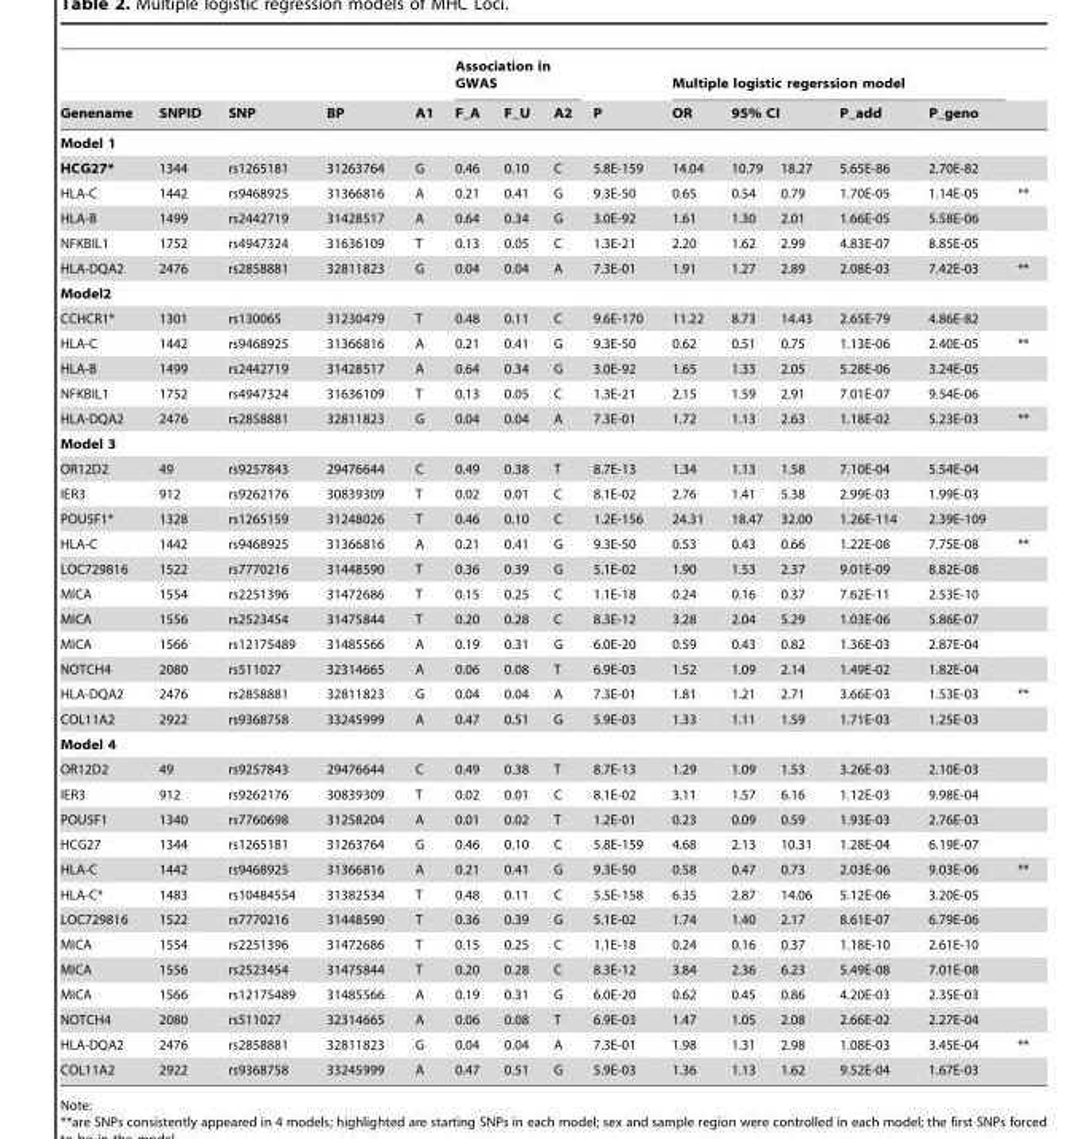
<table><thead><tr><td rowspan="3">Genename Model 1</td><td rowspan="3">SNPID</td><td rowspan="3">SNP</td><td rowspan="3">BP</td><td rowspan="3">A1</td><td colspan="3">Association in GWAS</td><td rowspan="3">P</td><td colspan="5">Multiple logistic regerssion model</td><td rowspan="3"></td></tr><tr><td rowspan="2">F_A</td><td rowspan="2">F_U</td><td rowspan="2">A2</td><td rowspan="2">OR</td><td colspan="2">95% CI</td><td rowspan="2">P_add</td><td rowspan="2">P_geno</td></tr><tr><td></td><td></td></tr></thead><tbody><tr><td>HCG27*</td><td>1344</td><td>rs1265181</td><td>31263764</td><td>G</td><td>0.46</td><td>0.10</td><td>C</td><td>5.8E-159</td><td>14.04</td><td>10.79</td><td>18.27</td><td>5.65E-86</td><td>2.70E-82</td><td></td></tr><tr><td>HLA-C</td><td>1442</td><td>rs9468925</td><td>31366816</td><td>A</td><td>0.21</td><td>0.41</td><td>G</td><td>9.3E-50</td><td>0.65</td><td>0.54</td><td>0.79</td><td>1.70E-05</td><td>1.14E-05</td><td>**</td></tr><tr><td>HLA-B</td><td>1499</td><td>rs2442719</td><td>31428517</td><td>A</td><td>0.64</td><td>0.34</td><td>G</td><td>3.0E-92</td><td>1.61</td><td>1.30</td><td>2.01</td><td>1.66E-05</td><td>5.58E-06</td><td></td></tr><tr><td>NFKBIL1</td><td>1752</td><td>rs4947324</td><td>31636109</td><td>T</td><td>0.13</td><td>0.05</td><td>C</td><td>1.3E-21</td><td>2.20</td><td>1.62</td><td>2.99</td><td>4.83E-07</td><td>8.85E-05</td><td></td></tr><tr><td>HLA-DQA2</td><td>2476</td><td>rs2858881</td><td>32811823</td><td>G</td><td>0.04</td><td>0.04</td><td>A</td><td>7.3E-01</td><td>1.91</td><td>1.27</td><td>2.89</td><td>2.08E-03</td><td>7.42E-03</td><td>**</td></tr><tr><td colspan="15">Model2</td></tr><tr><td>CCHCR1*</td><td>1301</td><td>rs130065</td><td>31230479</td><td>T</td><td>0.48</td><td>0.11</td><td>C</td><td>9.6E-170</td><td>11.22</td><td>8.73</td><td>14.43</td><td>2.65E-79</td><td>4.86E-82</td><td></td></tr><tr><td>HLA-C</td><td>1442</td><td>rs9468925</td><td>31366816</td><td>A</td><td>0.21</td><td>0.41</td><td>G</td><td>9.3E-50</td><td>0.62</td><td>0.51</td><td>0.75</td><td>1.13E-06</td><td>2.40E-05</td><td>**</td></tr><tr><td>HLA-B</td><td>1499</td><td>rs2442719</td><td>31428517</td><td>A</td><td>0.64</td><td>0.34</td><td>G</td><td>3.0E-92</td><td>1.65</td><td>1.33</td><td>2.05</td><td>5.28E-06</td><td>3.24E-05</td><td></td></tr><tr><td>NFKBIL1</td><td>1752</td><td>rs4947324</td><td>31636109</td><td>T</td><td>0.13</td><td>0.05</td><td>C</td><td>1.3E-21</td><td>2.15</td><td>1.59</td><td>2.91</td><td>7.01E-07</td><td>9.54E-06</td><td></td></tr><tr><td>HLA-DQA2</td><td>2476</td><td>rs2858881</td><td>32811823</td><td>G</td><td>0.04</td><td>0.04</td><td>A</td><td>7.3E-01</td><td>1.72</td><td>1.13</td><td>2.63</td><td>1.18E-02</td><td>5.23E-03</td><td>**</td></tr><tr><td colspan="15">Model 3</td></tr><tr><td>OR12D2</td><td>49</td><td>rs9257843</td><td>29476644</td><td>C</td><td>0.49</td><td>0.38</td><td>T</td><td>8.7E-13</td><td>1.34</td><td>1.13</td><td>1.58</td><td>7.10E-04</td><td>5.54E-04</td><td></td></tr><tr><td>IER3</td><td>912</td><td>rs9262176</td><td>30839309</td><td>T</td><td>0.02</td><td>0.01</td><td>C</td><td>8.1E-02</td><td>2.76</td><td>1.41</td><td>5.38</td><td>2.99E-03</td><td>1.99E-03</td><td></td></tr><tr><td>POU5F1*</td><td>1328</td><td>rs1265159</td><td>31248026</td><td>T</td><td>0.46</td><td>0.10</td><td>C</td><td>1.2E-156</td><td>24.31</td><td>18.47</td><td>32.00</td><td>1.26E-114</td><td>2.39E-109</td><td></td></tr><tr><td>HLA-C</td><td>1442</td><td>rs9468925</td><td>31366816</td><td>A</td><td>0.21</td><td>0.41</td><td>G</td><td>9.3E-50</td><td>0.53</td><td>0.43</td><td>0.66</td><td>1.22E-08</td><td>7.75E-08</td><td>**</td></tr><tr><td>LOC729816</td><td>1522</td><td>rs7770216</td><td>31448590</td><td>T</td><td>0.36</td><td>0.39</td><td>G</td><td>5.1E-02</td><td>1.90</td><td>1.53</td><td>2.37</td><td>9.01E-09</td><td>8.82E-08</td><td></td></tr><tr><td>MICA</td><td>1554</td><td>rs2251396</td><td>31472686</td><td>T</td><td>0.15</td><td>0.25</td><td>C</td><td>1.1E-18</td><td>0.24</td><td>0.16</td><td>0.37</td><td>7.62E-11</td><td>2.53E-10</td><td></td></tr><tr><td>MICA</td><td>1556</td><td>rs2523454</td><td>31475844</td><td>T</td><td>0.20</td><td>0.28</td><td>C</td><td>8.3E-12</td><td>3.28</td><td>2.04</td><td>5.29</td><td>1.03E-06</td><td>5.86E-07</td><td></td></tr><tr><td>MICA</td><td>1566</td><td>rs12175489</td><td>31485566</td><td>A</td><td>0.19</td><td>0.31</td><td>G</td><td>6.0E-20</td><td>0.59</td><td>0.43</td><td>0.82</td><td>1.36E-03</td><td>2.87E-04</td><td></td></tr><tr><td>NOTCH4</td><td>2080</td><td>rs511027</td><td>32314665</td><td>A</td><td>0.06</td><td>0.08</td><td>T</td><td>6.9E-03</td><td>1.52</td><td>1.09</td><td>2.14</td><td>1.49E-02</td><td>1.82E-04</td><td></td></tr><tr><td>HLA-DQA2</td><td>2476</td><td>rs2858881</td><td>32811823</td><td>G</td><td>0.04</td><td>0.04</td><td>A</td><td>7.3E-01</td><td>1.81</td><td>1.21</td><td>2.71</td><td>3.66E-03</td><td>1.53E-03</td><td>**</td></tr><tr><td>COL11A2</td><td>2922</td><td>rs9368758</td><td>33245999</td><td>A</td><td>0.47</td><td>0.51</td><td>G</td><td>5.9E-03</td><td>1.33</td><td>1.11</td><td>1.59</td><td>1.71E-03</td><td>1.25E-03</td><td></td></tr><tr><td colspan="15">Model 4</td></tr><tr><td>OR12D2</td><td>49</td><td>rs9257843</td><td>29476644</td><td>C</td><td>0.49</td><td>0.38</td><td>T</td><td>8.7E-13</td><td>1.29</td><td>1.09</td><td>1.53</td><td>3.26E-03</td><td>2.10E-03</td><td></td></tr><tr><td>IER3</td><td>912</td><td>rs9262176</td><td>30839309</td><td>T</td><td>0.02</td><td>0.01</td><td>C</td><td>8.1E-02</td><td>3.11</td><td>1.57</td><td>6.16</td><td>1.12E-03</td><td>9.98E-04</td><td></td></tr><tr><td>POU5F1</td><td>1340</td><td>rs7760698</td><td>31258204</td><td>A</td><td>0.01</td><td>0.02</td><td>T</td><td>1.2E-01</td><td>0.23</td><td>0.09</td><td>0.59</td><td>1.93E-03</td><td>2.76E-03</td><td></td></tr><tr><td>HCG27</td><td>1344</td><td>rs1265181</td><td>31263764</td><td>G</td><td>0.46</td><td>0.10</td><td>C</td><td>5.8E-159</td><td>4.68</td><td>2.13</td><td>10.31</td><td>1.28E-04</td><td>6.19E-07</td><td></td></tr><tr><td>HLA-C</td><td>1442</td><td>rs9468925</td><td>31366816</td><td>A</td><td>0.21</td><td>0.41</td><td>G</td><td>9.3E-50</td><td>0.58</td><td>0.47</td><td>0.73</td><td>2.03E-06</td><td>9.03E-06</td><td>**</td></tr><tr><td>HLA-C*</td><td>1483</td><td>rs10484554</td><td>31382534</td><td>T</td><td>0.48</td><td>0.11</td><td>C</td><td>5.5E-158</td><td>6.35</td><td>2.87</td><td>14.06</td><td>5.12E-06</td><td>3.20E-05</td><td></td></tr><tr><td>LOC729816</td><td>1522</td><td>rs7770216</td><td>31448590</td><td>T</td><td>0.36</td><td>0.39</td><td>G</td><td>5.1E-02</td><td>1.74</td><td>1.40</td><td>2.17</td><td>8.61E-07</td><td>6.79E-06</td><td></td></tr><tr><td>MICA</td><td>1554</td><td>rs2251396</td><td>31472686</td><td>T</td><td>0.15</td><td>0.25</td><td>C</td><td>1.1E-18</td><td>0.24</td><td>0.16</td><td>0.37</td><td>1.18E-10</td><td>2.61E-10</td><td></td></tr><tr><td>MICA</td><td>1556</td><td>rs2523454</td><td>31475844</td><td>T</td><td>0.20</td><td>0.28</td><td>C</td><td>8.3E-12</td><td>3.84</td><td>2.36</td><td>6.23</td><td>5.49E-08</td><td>7.01E-08</td><td></td></tr><tr><td>MICA</td><td>1566</td><td>rs12175489</td><td>31485566</td><td>A</td><td>0.19</td><td>0.31</td><td>G</td><td>6.0E-20</td><td>0.62</td><td>0.45</td><td>0.86</td><td>4.20E-03</td><td>2.35E-03</td><td></td></tr><tr><td>NOTCH4</td><td>2080</td><td>rs511027</td><td>32314665</td><td>A</td><td>0.06</td><td>0.08</td><td>T</td><td>6.9E-03</td><td>1.47</td><td>1.05</td><td>2.08</td><td>2.66E-02</td><td>2.27E-04</td><td></td></tr><tr><td>HLA-DQA2</td><td>2476</td><td>rs2858881</td><td>32811823</td><td>G</td><td>0.04</td><td>0.04</td><td>A</td><td>7.3E-01</td><td>1.98</td><td>1.31</td><td>2.98</td><td>1.08E-03</td><td>3.45E-04</td><td>**</td></tr><tr><td>COL11A2</td><td>2922</td><td>rs9368758</td><td>33245999</td><td>A</td><td>0.47</td><td>0.51</td><td>G</td><td>5.9E-03</td><td>1.36</td><td>1.13</td><td>1.62</td><td>9.52E-04</td><td>1.67E-03</td><td></td></tr></tbody></table>